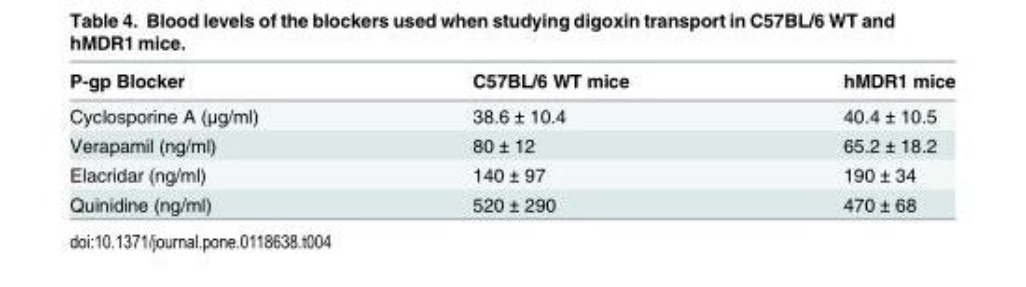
<table><thead><tr><td>P-gp Blocker</td><td>C57BL/6 WT mice</td><td>hMDR1 mice</td></tr></thead><tbody><tr><td>Cyclosporine A (μg/ml)</td><td>38.6 ± 10.4</td><td>40.4 ± 10.5</td></tr><tr><td>Verapamil (ng/ml)</td><td>80 ± 12</td><td>65.2 ± 18.2</td></tr><tr><td>Elacridar (ng/ml)</td><td>140 ± 97</td><td>190 ± 34</td></tr><tr><td>Quinidine (ng/ml)</td><td>520 ± 290</td><td>470 ± 68</td></tr></tbody></table>